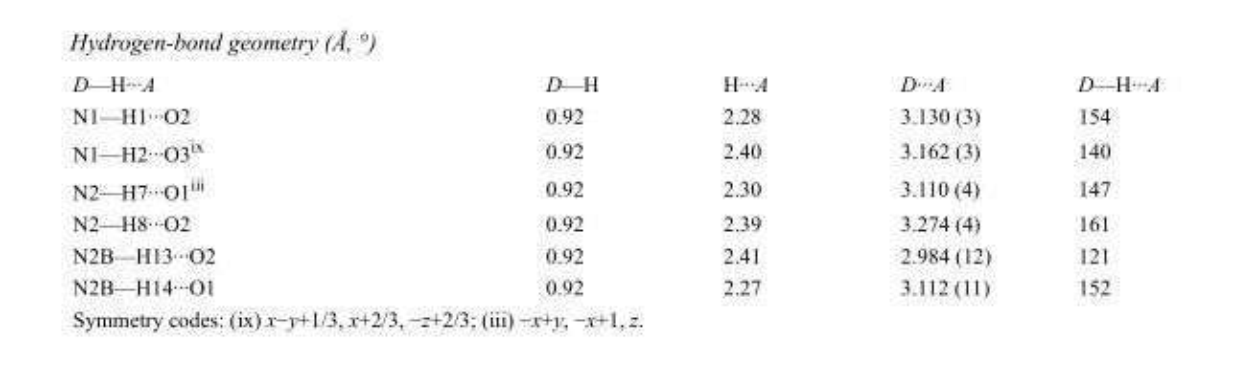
<table><tbody><tr><td>D—H···A</td><td>D—H</td><td>H···A</td><td>D···A</td><td>D—H···A</td></tr><tr><td>N1—H1···O2</td><td>0.92</td><td>2.28</td><td>3.130 (3)</td><td>154</td></tr><tr><td>N1—H2···O3<sup>ix</sup></td><td>0.92</td><td>2.40</td><td>3.162 (3)</td><td>140</td></tr><tr><td>N2—H7···O1<sup>iii</sup></td><td>0.92</td><td>2.30</td><td>3.110 (4)</td><td>147</td></tr><tr><td>N2—H8···O2</td><td>0.92</td><td>2.39</td><td>3.274 (4)</td><td>161</td></tr><tr><td>N2B—H13···O2</td><td>0.92</td><td>2.41</td><td>2.984 (12)</td><td>121</td></tr><tr><td>N2B—H14···O1</td><td>0.92</td><td>2.27</td><td>3.112 (11)</td><td>152</td></tr></tbody></table>